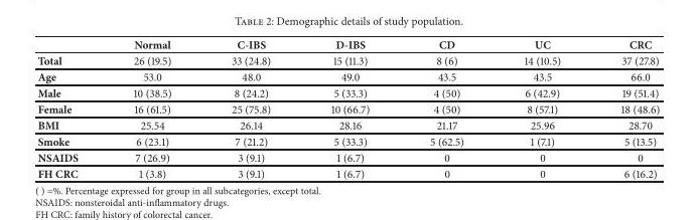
<table><thead><tr><td></td><td>Normal</td><td>C-IBS</td><td>D-IBS</td><td>CD</td><td>UC</td><td>CRC</td></tr></thead><tbody><tr><td>Total</td><td>26 (19.5)</td><td>33 (24.8)</td><td>15 (11.3)</td><td>8 (6)</td><td>14 (10.5)</td><td>37 (27.8)</td></tr><tr><td>Age</td><td>53.0</td><td>48.0</td><td>49.0</td><td>43.5</td><td>43.5</td><td>66.0</td></tr><tr><td>Male</td><td>10 (38.5)</td><td>8 (24.2)</td><td>5 (33.3)</td><td>4 (50)</td><td>6 (42.9)</td><td>19 (51.4)</td></tr><tr><td>Female</td><td>16 (61.5)</td><td>25 (75.8)</td><td>10 (66.7)</td><td>4 (50)</td><td>8 (57.1)</td><td>18 (48.6)</td></tr><tr><td>BMI</td><td>25.54</td><td>26.14</td><td>28.16</td><td>21.17</td><td>25.96</td><td>28.70</td></tr><tr><td>Smoke</td><td>6 (23.1)</td><td>7 (21.2)</td><td>5 (33.3)</td><td>5 (62.5)</td><td>1 (7.1)</td><td>5 (13.5)</td></tr><tr><td>NSAIDS</td><td>7 (26.9)</td><td>3 (9.1)</td><td>1 (6.7)</td><td>0</td><td>0</td><td>0</td></tr><tr><td>FH CRC</td><td>1 (3.8)</td><td>3 (9.1)</td><td>1 (6.7)</td><td>0</td><td>0</td><td>6 (16.2)</td></tr></tbody></table>